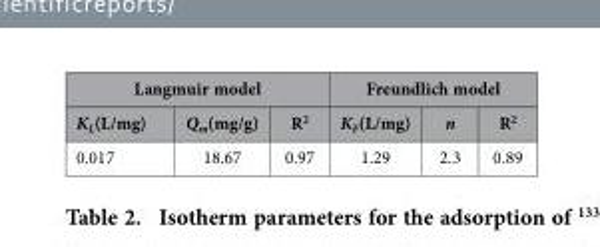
<table><thead><tr><td colspan="3">Langmuir model</td><td colspan="3">Freundlich model</td></tr><tr><td>K<sub>L</sub>(L/mg)</td><td>Q<sub>m</sub>(mg/g)</td><td>R<sup>2</sup></td><td>K<sub>F</sub>(L/mg)</td><td>n</td><td>R<sup>2</sup></td></tr></thead><tbody><tr><td>0.017</td><td>18.67</td><td>0.97</td><td>1.29</td><td>2.3</td><td>0.89</td></tr></tbody></table>